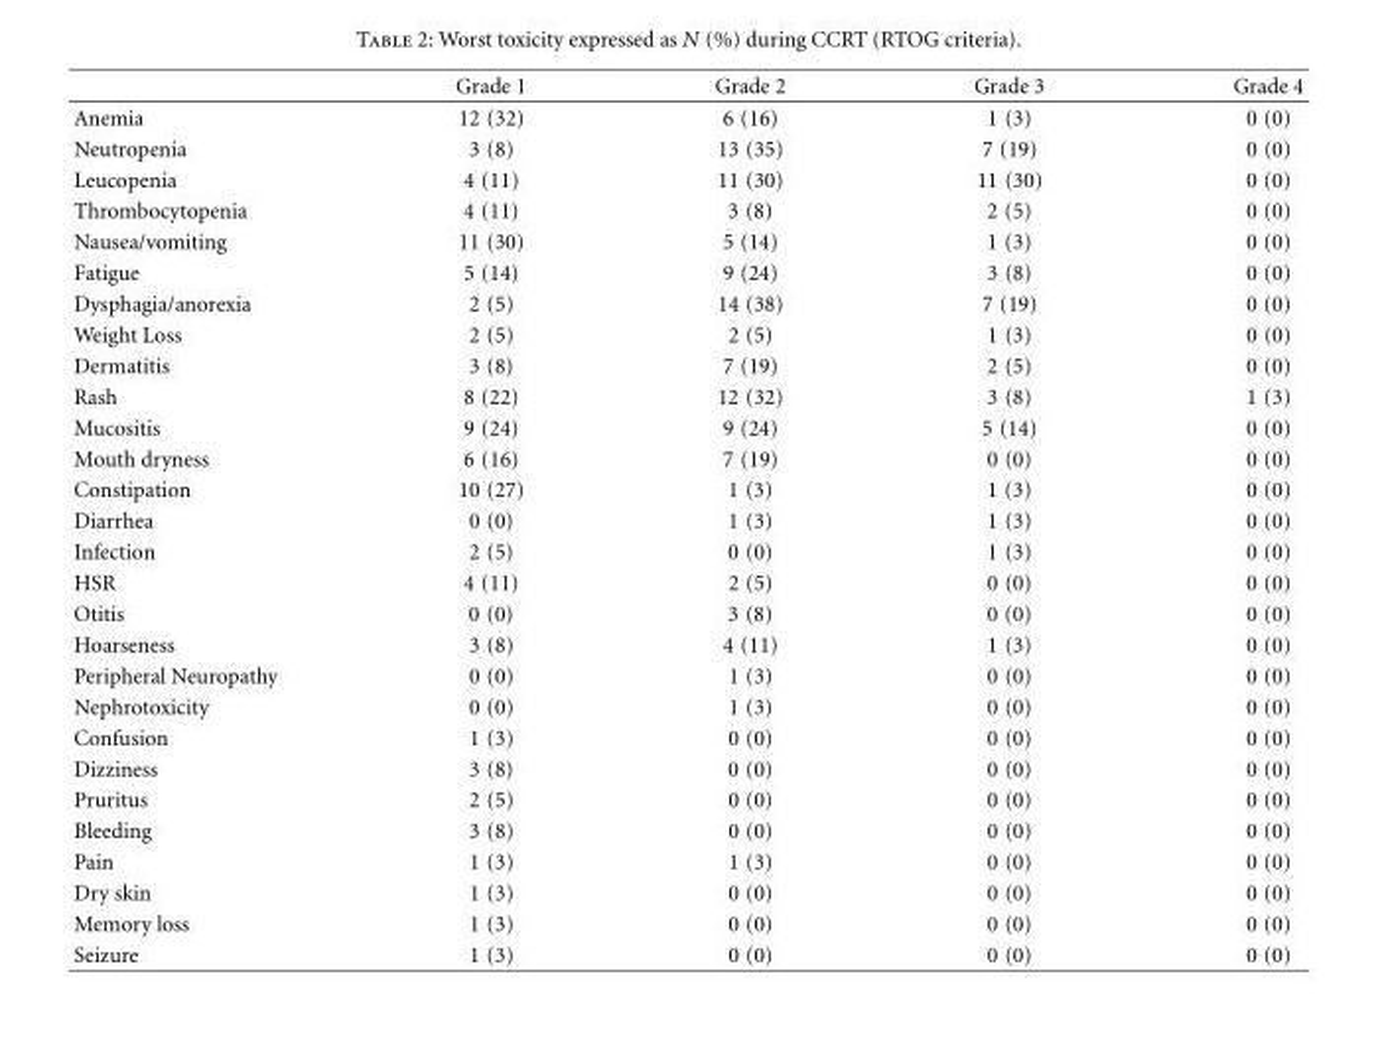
<table><thead><tr><td></td><td>Grade 1</td><td>Grade 2</td><td>Grade 3</td><td>Grade 4</td></tr></thead><tbody><tr><td>Anemia</td><td>12 (32)</td><td>6 (16)</td><td>1 (3)</td><td>0 (0)</td></tr><tr><td>Neutropenia</td><td>3 (8)</td><td>13 (35)</td><td>7 (19)</td><td>0 (0)</td></tr><tr><td>Leucopenia</td><td>4 (11)</td><td>11 (30)</td><td>11 (30)</td><td>0 (0)</td></tr><tr><td>Thrombocytopenia</td><td>4 (11)</td><td>3 (8)</td><td>2 (5)</td><td>0 (0)</td></tr><tr><td>Nausea/vomiting</td><td>11 (30)</td><td>5 (14)</td><td>1 (3)</td><td>0 (0)</td></tr><tr><td>Fatigue</td><td>5 (14)</td><td>9 (24)</td><td>3 (8)</td><td>0 (0)</td></tr><tr><td>Dysphagia/anorexia</td><td>2 (5)</td><td>14 (38)</td><td>7 (19)</td><td>0 (0)</td></tr><tr><td>Weight Loss</td><td>2 (5)</td><td>2 (5)</td><td>1 (3)</td><td>0 (0)</td></tr><tr><td>Dermatitis</td><td>3 (8)</td><td>7 (19)</td><td>2 (5)</td><td>0 (0)</td></tr><tr><td>Rash</td><td>8 (22)</td><td>12 (32)</td><td>3 (8)</td><td>1 (3)</td></tr><tr><td>Mucositis</td><td>9 (24)</td><td>9 (24)</td><td>5 (14)</td><td>0 (0)</td></tr><tr><td>Mouth dryness</td><td>6 (16)</td><td>7 (19)</td><td>0 (0)</td><td>0 (0)</td></tr><tr><td>Constipation</td><td>10 (27)</td><td>1 (3)</td><td>1 (3)</td><td>0 (0)</td></tr><tr><td>Diarrhea</td><td>0 (0)</td><td>1 (3)</td><td>1 (3)</td><td>0 (0)</td></tr><tr><td>Infection</td><td>2 (5)</td><td>0 (0)</td><td>1 (3)</td><td>0 (0)</td></tr><tr><td>HSR</td><td>4 (11)</td><td>2 (5)</td><td>0 (0)</td><td>0 (0)</td></tr><tr><td>Otitis</td><td>0 (0)</td><td>3 (8)</td><td>0 (0)</td><td>0 (0)</td></tr><tr><td>Hoarseness</td><td>3 (8)</td><td>4 (11)</td><td>1 (3)</td><td>0 (0)</td></tr><tr><td>Peripheral Neuropathy</td><td>0 (0)</td><td>1 (3)</td><td>0 (0)</td><td>0 (0)</td></tr><tr><td>Nephrotoxicity</td><td>0 (0)</td><td>1 (3)</td><td>0 (0)</td><td>0 (0)</td></tr><tr><td>Confusion</td><td>1 (3)</td><td>0 (0)</td><td>0 (0)</td><td>0 (0)</td></tr><tr><td>Dizziness</td><td>3 (8)</td><td>0 (0)</td><td>0 (0)</td><td>0 (0)</td></tr><tr><td>Pruritus</td><td>2 (5)</td><td>0 (0)</td><td>0 (0)</td><td>0 (0)</td></tr><tr><td>Bleeding</td><td>3 (8)</td><td>0 (0)</td><td>0 (0)</td><td>0 (0)</td></tr><tr><td>Pain</td><td>1 (3)</td><td>1 (3)</td><td>0 (0)</td><td>0 (0)</td></tr><tr><td>Dry skin</td><td>1 (3)</td><td>0 (0)</td><td>0 (0)</td><td>0 (0)</td></tr><tr><td>Memory loss</td><td>1 (3)</td><td>0 (0)</td><td>0 (0)</td><td>0 (0)</td></tr><tr><td>Seizure</td><td>1 (3)</td><td>0 (0)</td><td>0 (0)</td><td>0 (0)</td></tr></tbody></table>